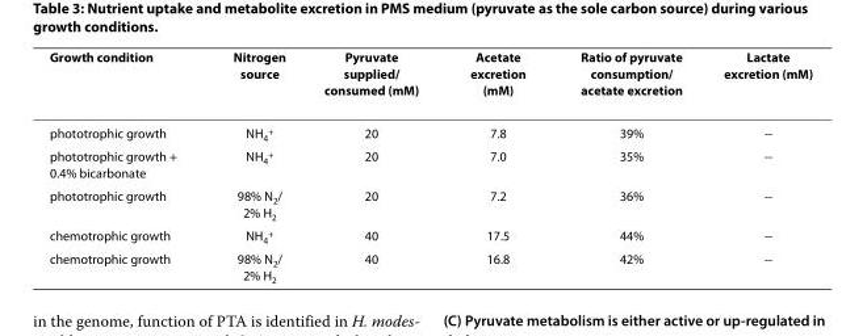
<table><thead><tr><td>Growth condition</td><td>Nitrogen source</td><td>Pyruvate supplied/ consumed (mM)</td><td>Acetate excretion (mM)</td><td>Ratio of pyruvate consumption/ acetate excretion</td><td>Lactate excretion (mM)</td></tr></thead><tbody><tr><td>phototrophic growth</td><td>NH<sub>4</sub><sup>+</sup></td><td>20</td><td>7.8</td><td>39%</td><td>--</td></tr><tr><td>phototrophic growth + 0.4% bicarbonate</td><td>NH<sub>4</sub><sup>+</sup></td><td>20</td><td>7.0</td><td>35%</td><td>--</td></tr><tr><td>phototrophic growth</td><td>98% N<sub>2</sub>/ 2% H<sub>2</sub></td><td>20</td><td>7.2</td><td>36%</td><td>--</td></tr><tr><td>chemotrophic growth</td><td>NH<sub>4</sub><sup>+</sup></td><td>40</td><td>17.5</td><td>44%</td><td>--</td></tr><tr><td>chemotrophic growth</td><td>98% N<sub>2</sub>/ 2% H<sub>2</sub></td><td>40</td><td>16.8</td><td>42%</td><td>--</td></tr></tbody></table>